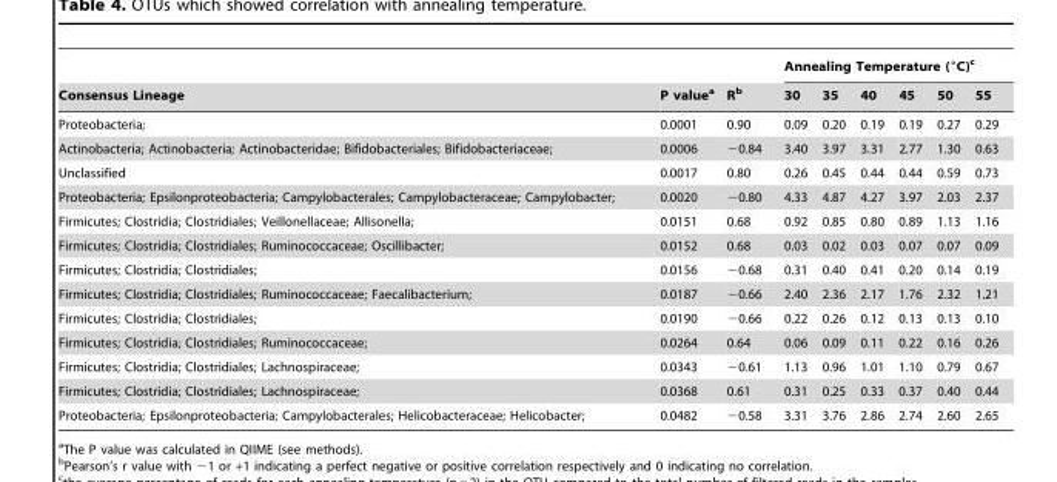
<table><thead><tr><td rowspan="2">Consensus Lineage</td><td rowspan="2">P value<sup>a</sup></td><td rowspan="2">R<sup>b</sup></td><td colspan="6">Annealing Temperature (°C)<sup>c</sup></td></tr><tr><td>30</td><td>35</td><td>40</td><td>45</td><td>50</td><td>55</td></tr></thead><tbody><tr><td>Proteobacteria;</td><td>0.0001</td><td>0.90</td><td>0.09</td><td>0.20</td><td>0.19</td><td>0.19</td><td>0.27</td><td>0.29</td></tr><tr><td>Actinobacteria; Actinobacteria; Actinobacteridae; Bifidobacteriales; Bifidobacteriaceae;</td><td>0.0006</td><td>−0.84</td><td>3.40</td><td>3.97</td><td>3.31</td><td>2.77</td><td>1.30</td><td>0.63</td></tr><tr><td>Unclassified</td><td>0.0017</td><td>0.80</td><td>0.26</td><td>0.45</td><td>0.44</td><td>0.44</td><td>0.59</td><td>0.73</td></tr><tr><td>Proteobacteria; Epsilonproteobacteria; Campylobacterales; Campylobacteraceae; Campylobacter;</td><td>0.0020</td><td>−0.80</td><td>4.33</td><td>4.87</td><td>4.27</td><td>3.97</td><td>2.03</td><td>2.37</td></tr><tr><td>Firmicutes; Clostridia; Clostridiales; Veillonellaceae; Allisonella;</td><td>0.0151</td><td>0.68</td><td>0.92</td><td>0.85</td><td>0.80</td><td>0.89</td><td>1.13</td><td>1.16</td></tr><tr><td>Firmicutes; Clostridia; Clostridiales; Ruminococcaceae; Oscillibacter;</td><td>0.0152</td><td>0.68</td><td>0.03</td><td>0.02</td><td>0.03</td><td>0.07</td><td>0.07</td><td>0.09</td></tr><tr><td>Firmicutes; Clostridia; Clostridiales;</td><td>0.0156</td><td>−0.68</td><td>0.31</td><td>0.40</td><td>0.41</td><td>0.20</td><td>0.14</td><td>0.19</td></tr><tr><td>Firmicutes; Clostridia; Clostridiales; Ruminococcaceae; Faecalibacterium;</td><td>0.0187</td><td>−0.66</td><td>2.40</td><td>2.36</td><td>2.17</td><td>1.76</td><td>2.32</td><td>1.21</td></tr><tr><td>Firmicutes; Clostridia; Clostridiales;</td><td>0.0190</td><td>−0.66</td><td>0.22</td><td>0.26</td><td>0.12</td><td>0.13</td><td>0.13</td><td>0.10</td></tr><tr><td>Firmicutes; Clostridia; Clostridiales; Ruminococcaceae;</td><td>0.0264</td><td>0.64</td><td>0.06</td><td>0.09</td><td>0.11</td><td>0.22</td><td>0.16</td><td>0.26</td></tr><tr><td>Firmicutes; Clostridia; Clostridiales; Lachnospiraceae;</td><td>0.0343</td><td>−0.61</td><td>1.13</td><td>0.96</td><td>1.01</td><td>1.10</td><td>0.79</td><td>0.67</td></tr><tr><td>Firmicutes; Clostridia; Clostridiales; Lachnospiraceae;</td><td>0.0368</td><td>0.61</td><td>0.31</td><td>0.25</td><td>0.33</td><td>0.37</td><td>0.40</td><td>0.44</td></tr><tr><td>Proteobacteria; Epsilonproteobacteria; Campylobacterales; Helicobacteraceae; Helicobacter;</td><td>0.0482</td><td>−0.58</td><td>3.31</td><td>3.76</td><td>2.86</td><td>2.74</td><td>2.60</td><td>2.65</td></tr></tbody></table>